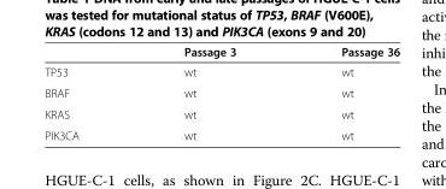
<table><thead><tr><td></td><td>Passage 3</td><td>Passage 36</td></tr></thead><tbody><tr><td>TP53</td><td>wt</td><td>wt</td></tr><tr><td>BRAF</td><td>wt</td><td>wt</td></tr><tr><td>KRAS</td><td>wt</td><td>wt</td></tr><tr><td>PIK3CA</td><td>wt</td><td>wt</td></tr></tbody></table>